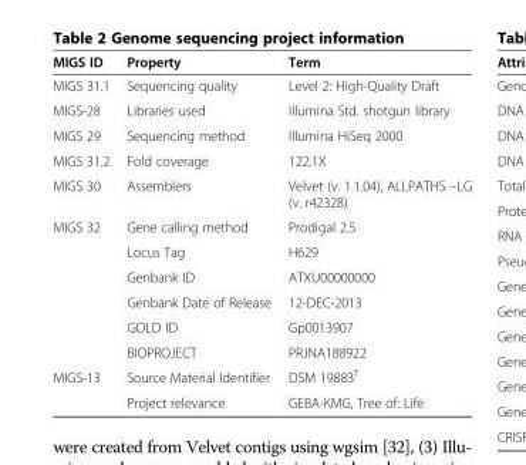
<table><thead><tr><td>MIGS ID</td><td>Property</td><td>Term</td></tr></thead><tbody><tr><td>MIGS 31.1</td><td>Sequencing quality</td><td>Level 2: High-Quality Draft</td></tr><tr><td>MIGS-28</td><td>Libraries used</td><td>Illumina Std. shotgun library</td></tr><tr><td>MIGS 29</td><td>Sequencing method</td><td>Illumina HiSeq 2000</td></tr><tr><td>MIGS 31.2</td><td>Fold coverage</td><td>122.1X</td></tr><tr><td>MIGS 30</td><td>Assemblers</td><td>Velvet (v. 1.1.04), ALLPATHS –LG (v. r42328)</td></tr><tr><td rowspan="6">MIGS 32</td><td>Gene calling method</td><td>Prodigal 2.5</td></tr><tr><td>Locus Tag</td><td>H629</td></tr><tr><td>Genbank ID</td><td>ATXU00000000</td></tr><tr><td>Genbank Date of Release</td><td>12-DEC-2013</td></tr><tr><td>GOLD ID</td><td>Gp0013907</td></tr><tr><td>BIOPROJECT</td><td>PRJNA188922</td></tr><tr><td rowspan="2">MIGS-13</td><td>Source Material Identifier</td><td>DSM 19883<sup>T</sup></td></tr><tr><td>Project relevance</td><td>GEBA-KMG, Tree of: Life</td></tr></tbody></table>